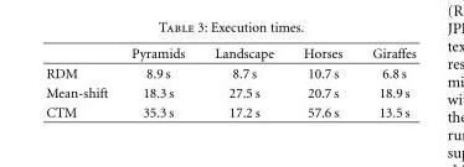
<table><thead><tr><td></td><td>Pyramids</td><td>Landscape</td><td>Horses</td><td>Giraffes</td></tr></thead><tbody><tr><td>RDM</td><td>8.9 s</td><td>8.7 s</td><td>10.7 s</td><td>6.8 s</td></tr><tr><td>Mean-shift</td><td>18.3 s</td><td>27.5 s</td><td>20.7 s</td><td>18.9 s</td></tr><tr><td>CTM</td><td>35.3 s</td><td>17.2 s</td><td>57.6 s</td><td>13.5 s</td></tr></tbody></table>